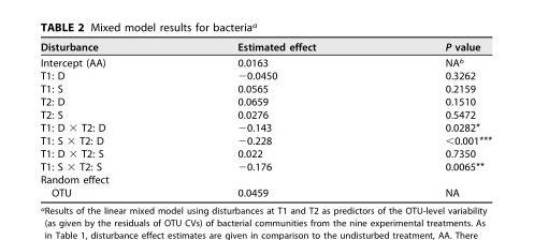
<table><thead><tr><td>Disturbance</td><td>Estimated effect</td><td>P value</td></tr></thead><tbody><tr><td>Intercept (AA)</td><td>0.0163</td><td>NA<sup>b</sup></td></tr><tr><td>T1: D</td><td>−0.0450</td><td>0.3262</td></tr><tr><td>T1: S</td><td>0.0565</td><td>0.2159</td></tr><tr><td>T2: D</td><td>0.0659</td><td>0.1510</td></tr><tr><td>T2: S</td><td>0.0276</td><td>0.5472</td></tr><tr><td>T1: D × T2: D</td><td>−0.143</td><td>0.0282*</td></tr><tr><td>T1: S × T2: D</td><td>−0.228</td><td>&lt;0.001***</td></tr><tr><td>T1: D × T2: S</td><td>0.022</td><td>0.7350</td></tr><tr><td>T1: S × T2: S</td><td>−0.176</td><td>0.0065**</td></tr><tr><td colspan="3">Random effect</td></tr><tr><td>OTU</td><td>0.0459</td><td>NA</td></tr></tbody></table>